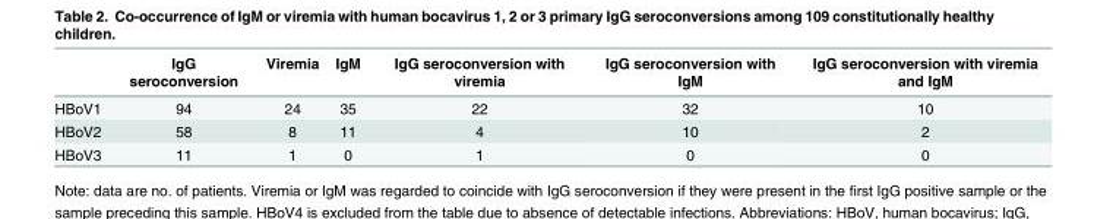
<table><thead><tr><td></td><td>IgG seroconversion</td><td>Viremia</td><td>IgM</td><td>IgG seroconversion with viremia</td><td>IgG seroconversion with IgM</td><td>IgG seroconversion with viremia and IgM</td></tr></thead><tbody><tr><td>HBoV1</td><td>94</td><td>24</td><td>35</td><td>22</td><td>32</td><td>10</td></tr><tr><td>HBoV2</td><td>58</td><td>8</td><td>11</td><td>4</td><td>10</td><td>2</td></tr><tr><td>HBoV3</td><td>11</td><td>1</td><td>0</td><td>1</td><td>0</td><td>0</td></tr></tbody></table>